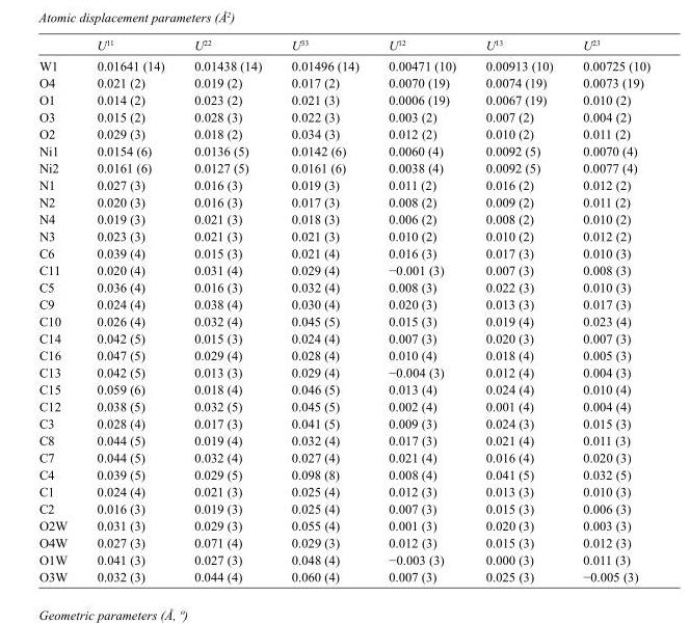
<table><thead><tr><td></td><td>U<sup>11</sup></td><td>U<sup>22</sup></td><td>U<sup>33</sup></td><td>U<sup>12</sup></td><td>U<sup>13</sup></td><td>U<sup>23</sup></td></tr></thead><tbody><tr><td>W1</td><td>0.01641 (14)</td><td>0.01438 (14)</td><td>0.01496 (14)</td><td>0.00471 (10)</td><td>0.00913 (10)</td><td>0.00725 (10)</td></tr><tr><td>O4</td><td>0.021 (2)</td><td>0.019 (2)</td><td>0.017 (2)</td><td>0.0070 (19)</td><td>0.0074 (19)</td><td>0.0073 (19)</td></tr><tr><td>O1</td><td>0.014 (2)</td><td>0.023 (2)</td><td>0.021 (3)</td><td>0.0006 (19)</td><td>0.0067 (19)</td><td>0.010 (2)</td></tr><tr><td>O3</td><td>0.015 (2)</td><td>0.028 (3)</td><td>0.022 (3)</td><td>0.003 (2)</td><td>0.007 (2)</td><td>0.004 (2)</td></tr><tr><td>O2</td><td>0.029 (3)</td><td>0.018 (2)</td><td>0.034 (3)</td><td>0.012 (2)</td><td>0.010 (2)</td><td>0.011 (2)</td></tr><tr><td>Ni1</td><td>0.0154 (6)</td><td>0.0136 (5)</td><td>0.0142 (6)</td><td>0.0060 (4)</td><td>0.0092 (5)</td><td>0.0070 (4)</td></tr><tr><td>Ni2</td><td>0.0161 (6)</td><td>0.0127 (5)</td><td>0.0161 (6)</td><td>0.0038 (4)</td><td>0.0092 (5)</td><td>0.0077 (4)</td></tr><tr><td>N1</td><td>0.027 (3)</td><td>0.016 (3)</td><td>0.019 (3)</td><td>0.011 (2)</td><td>0.016 (2)</td><td>0.012 (2)</td></tr><tr><td>N2</td><td>0.020 (3)</td><td>0.016 (3)</td><td>0.017 (3)</td><td>0.008 (2)</td><td>0.009 (2)</td><td>0.011 (2)</td></tr><tr><td>N4</td><td>0.019 (3)</td><td>0.021 (3)</td><td>0.018 (3)</td><td>0.006 (2)</td><td>0.008 (2)</td><td>0.010 (2)</td></tr><tr><td>N3</td><td>0.023 (3)</td><td>0.021 (3)</td><td>0.021 (3)</td><td>0.010 (2)</td><td>0.010 (2)</td><td>0.012 (2)</td></tr><tr><td>C6</td><td>0.039 (4)</td><td>0.015 (3)</td><td>0.021 (4)</td><td>0.016 (3)</td><td>0.017 (3)</td><td>0.010 (3)</td></tr><tr><td>C11</td><td>0.020 (4)</td><td>0.031 (4)</td><td>0.029 (4)</td><td>−0.001 (3)</td><td>0.007 (3)</td><td>0.008 (3)</td></tr><tr><td>C5</td><td>0.036 (4)</td><td>0.016 (3)</td><td>0.032 (4)</td><td>0.008 (3)</td><td>0.022 (3)</td><td>0.010 (3)</td></tr><tr><td>C9</td><td>0.024 (4)</td><td>0.038 (4)</td><td>0.030 (4)</td><td>0.020 (3)</td><td>0.013 (3)</td><td>0.017 (3)</td></tr><tr><td>C10</td><td>0.026 (4)</td><td>0.032 (4)</td><td>0.045 (5)</td><td>0.015 (3)</td><td>0.019 (4)</td><td>0.023 (4)</td></tr><tr><td>C14</td><td>0.042 (5)</td><td>0.015 (3)</td><td>0.024 (4)</td><td>0.007 (3)</td><td>0.020 (3)</td><td>0.007 (3)</td></tr><tr><td>C16</td><td>0.047 (5)</td><td>0.029 (4)</td><td>0.028 (4)</td><td>0.010 (4)</td><td>0.018 (4)</td><td>0.005 (3)</td></tr><tr><td>C13</td><td>0.042 (5)</td><td>0.013 (3)</td><td>0.029 (4)</td><td>−0.004 (3)</td><td>0.012 (4)</td><td>0.004 (3)</td></tr><tr><td>C15</td><td>0.059 (6)</td><td>0.018 (4)</td><td>0.046 (5)</td><td>0.013 (4)</td><td>0.024 (4)</td><td>0.010 (4)</td></tr><tr><td>C12</td><td>0.038 (5)</td><td>0.032 (5)</td><td>0.045 (5)</td><td>0.002 (4)</td><td>0.001 (4)</td><td>0.004 (4)</td></tr><tr><td>C3</td><td>0.028 (4)</td><td>0.017 (3)</td><td>0.041 (5)</td><td>0.009 (3)</td><td>0.024 (3)</td><td>0.015 (3)</td></tr><tr><td>C8</td><td>0.044 (5)</td><td>0.019 (4)</td><td>0.032 (4)</td><td>0.017 (3)</td><td>0.021 (4)</td><td>0.011 (3)</td></tr><tr><td>C7</td><td>0.044 (5)</td><td>0.032 (4)</td><td>0.027 (4)</td><td>0.021 (4)</td><td>0.016 (4)</td><td>0.020 (3)</td></tr><tr><td>C4</td><td>0.039 (5)</td><td>0.029 (5)</td><td>0.098 (8)</td><td>0.008 (4)</td><td>0.041 (5)</td><td>0.032 (5)</td></tr><tr><td>C1</td><td>0.024 (4)</td><td>0.021 (3)</td><td>0.025 (4)</td><td>0.012 (3)</td><td>0.013 (3)</td><td>0.010 (3)</td></tr><tr><td>C2</td><td>0.016 (3)</td><td>0.019 (3)</td><td>0.025 (4)</td><td>0.007 (3)</td><td>0.015 (3)</td><td>0.006 (3)</td></tr><tr><td>O2W</td><td>0.031 (3)</td><td>0.029 (3)</td><td>0.055 (4)</td><td>0.001 (3)</td><td>0.020 (3)</td><td>0.003 (3)</td></tr><tr><td>O4W</td><td>0.027 (3)</td><td>0.071 (4)</td><td>0.029 (3)</td><td>0.012 (3)</td><td>0.015 (3)</td><td>0.012 (3)</td></tr><tr><td>O1W</td><td>0.041 (3)</td><td>0.027 (3)</td><td>0.048 (4)</td><td>−0.003 (3)</td><td>0.000 (3)</td><td>0.011 (3)</td></tr><tr><td>O3W</td><td>0.032 (3)</td><td>0.044 (4)</td><td>0.060 (4)</td><td>0.007 (3)</td><td>0.025 (3)</td><td>−0.005 (3)</td></tr></tbody></table>